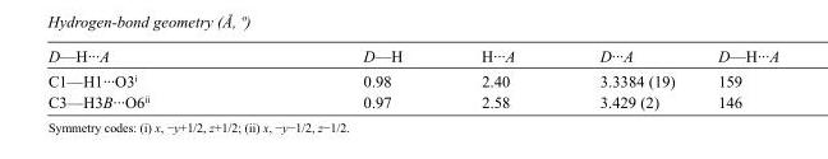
<table><tbody><tr><td>D—H···A</td><td>D—H</td><td>H···A</td><td>D···A</td><td>D—H···A</td></tr><tr><td>C1—H1···O3<sup>i</sup></td><td>0.98</td><td>2.40</td><td>3.3384 (19)</td><td>159</td></tr><tr><td>C3—H3B···O6<sup>ii</sup></td><td>0.97</td><td>2.58</td><td>3.429 (2)</td><td>146</td></tr></tbody></table>